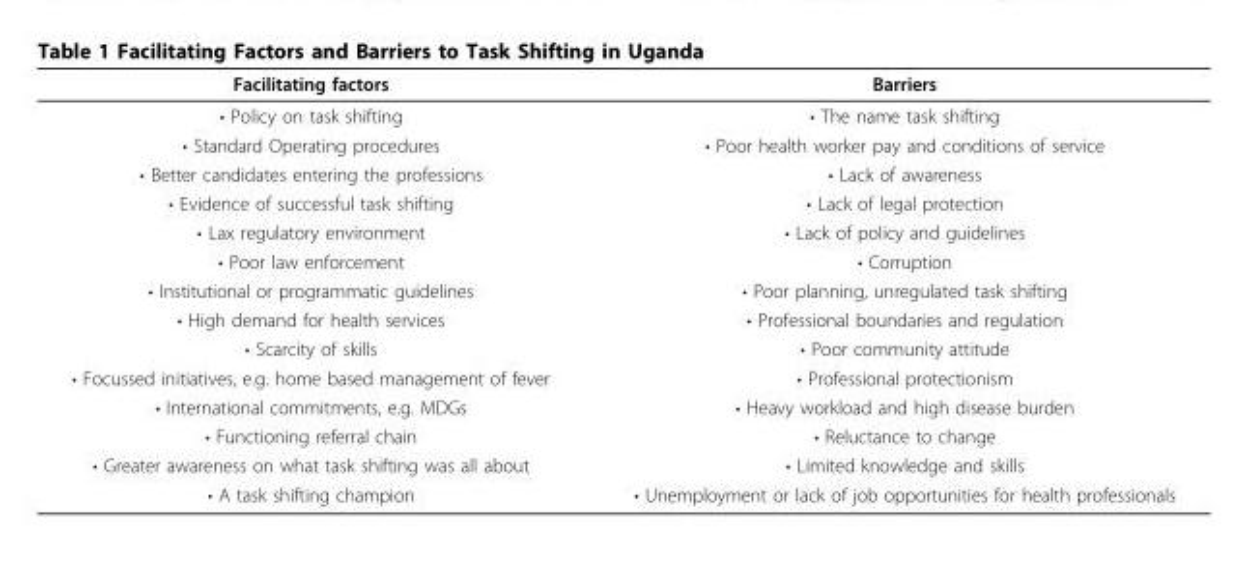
<table><thead><tr><td>Facilitating factors</td><td>Barriers</td></tr></thead><tbody><tr><td>• Policy on task shifting</td><td>• The name task shifting</td></tr><tr><td>• Standard Operating procedures</td><td>• Poor health worker pay and conditions of service</td></tr><tr><td>• Better candidates entering the professions</td><td>• Lack of awareness</td></tr><tr><td>• Evidence of successful task shifting</td><td>• Lack of legal protection</td></tr><tr><td>• Lax regulatory environment</td><td>• Lack of policy and guidelines</td></tr><tr><td>• Poor law enforcement</td><td>• Corruption</td></tr><tr><td>• Institutional or programmatic guidelines</td><td>• Poor planning, unregulated task shifting</td></tr><tr><td>• High demand for health services</td><td>• Professional boundaries and regulation</td></tr><tr><td>• Scarcity of skills</td><td>• Poor community attitude</td></tr><tr><td>• Focussed initiatives, e.g. home based management of fever</td><td>• Professional protectionism</td></tr><tr><td>• International commitments, e.g. MDGs</td><td>• Heavy workload and high disease burden</td></tr><tr><td>• Functioning referral chain</td><td>• Reluctance to change</td></tr><tr><td>• Greater awareness on what task shifting was all about</td><td>• Limited knowledge and skills</td></tr><tr><td>• A task shifting champion</td><td>• Unemployment or lack of job opportunities for health professionals</td></tr></tbody></table>